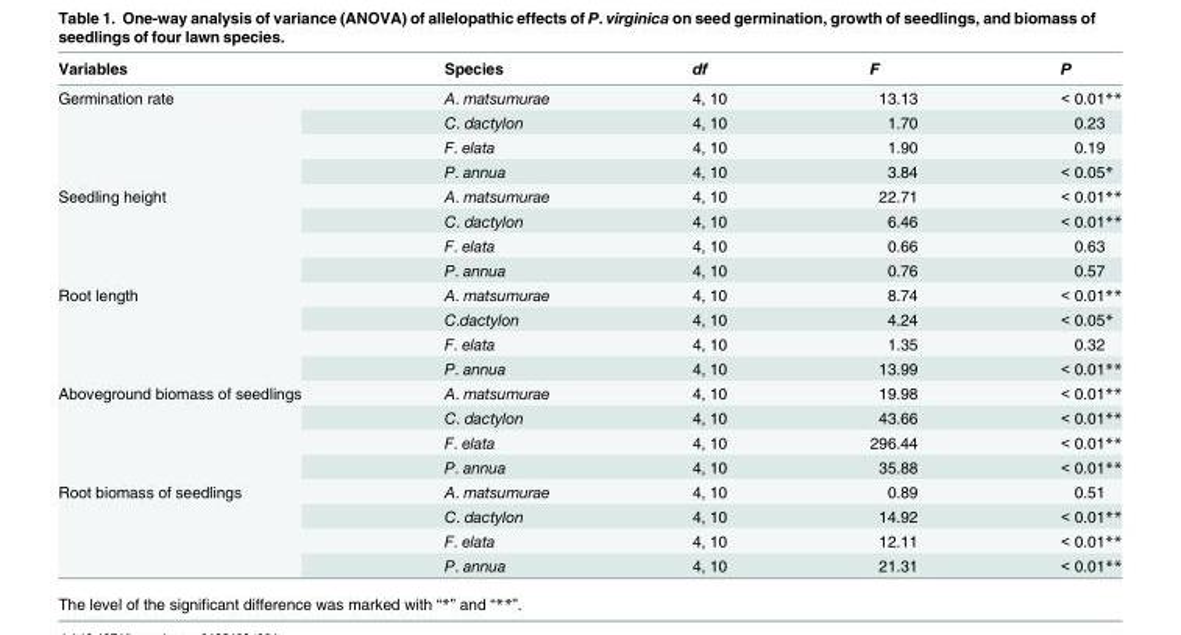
<table><thead><tr><td>Variables</td><td>Species</td><td>df</td><td>F</td><td>P</td></tr></thead><tbody><tr><td rowspan="4">Germination rate</td><td>A. matsumurae</td><td>4, 10</td><td>13.13</td><td>&lt; 0.01**</td></tr><tr><td>C. dactylon</td><td>4, 10</td><td>1.70</td><td>0.23</td></tr><tr><td>F. elata</td><td>4, 10</td><td>1.90</td><td>0.19</td></tr><tr><td>P. annua</td><td>4, 10</td><td>3.84</td><td>&lt; 0.05*</td></tr><tr><td rowspan="4">Seedling height</td><td>A. matsumurae</td><td>4, 10</td><td>22.71</td><td>&lt; 0.01**</td></tr><tr><td>C. dactylon</td><td>4, 10</td><td>6.46</td><td>&lt; 0.01**</td></tr><tr><td>F. elata</td><td>4, 10</td><td>0.66</td><td>0.63</td></tr><tr><td>P. annua</td><td>4, 10</td><td>0.76</td><td>0.57</td></tr><tr><td rowspan="4">Root length</td><td>A. matsumurae</td><td>4, 10</td><td>8.74</td><td>&lt; 0.01**</td></tr><tr><td>C.dactylon</td><td>4, 10</td><td>4.24</td><td>&lt; 0.05*</td></tr><tr><td>F. elata</td><td>4, 10</td><td>1.35</td><td>0.32</td></tr><tr><td>P. annua</td><td>4, 10</td><td>13.99</td><td>&lt; 0.01**</td></tr><tr><td rowspan="4">Aboveground biomass of seedlings</td><td>A. matsumurae</td><td>4, 10</td><td>19.98</td><td>&lt; 0.01**</td></tr><tr><td>C. dactylon</td><td>4, 10</td><td>43.66</td><td>&lt; 0.01**</td></tr><tr><td>F. elata</td><td>4, 10</td><td>296.44</td><td>&lt; 0.01**</td></tr><tr><td>P. annua</td><td>4, 10</td><td>35.88</td><td>&lt; 0.01**</td></tr><tr><td rowspan="4">Root biomass of seedlings</td><td>A. matsumurae</td><td>4, 10</td><td>0.89</td><td>0.51</td></tr><tr><td>C. dactylon</td><td>4, 10</td><td>14.92</td><td>&lt; 0.01**</td></tr><tr><td>F. elata</td><td>4, 10</td><td>12.11</td><td>&lt; 0.01**</td></tr><tr><td>P. annua</td><td>4, 10</td><td>21.31</td><td>&lt; 0.01**</td></tr></tbody></table>